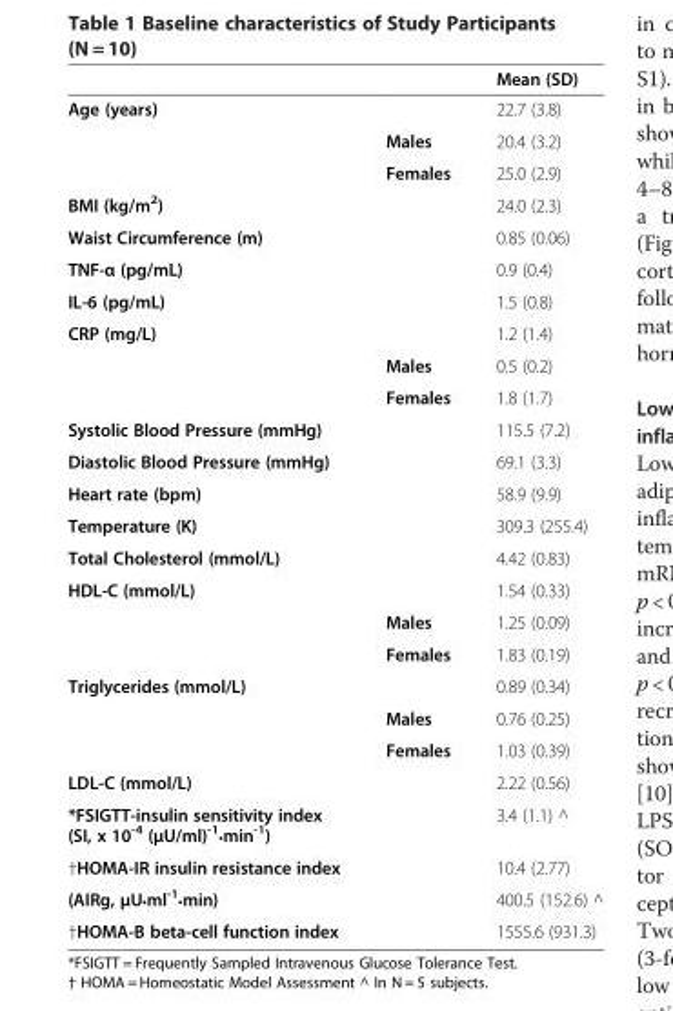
<table><thead><tr><td></td><td></td><td>Mean (SD)</td></tr></thead><tbody><tr><td rowspan="3">Age (years)</td><td></td><td>22.7 (3.8)</td></tr><tr><td>Males</td><td>20.4 (3.2)</td></tr><tr><td>Females</td><td>25.0 (2.9)</td></tr><tr><td>BMI (kg/m<sup>2</sup>)</td><td></td><td>24.0 (2.3)</td></tr><tr><td>Waist Circumference (m)</td><td></td><td>0.85 (0.06)</td></tr><tr><td>TNF-α (pg/mL)</td><td></td><td>0.9 (0.4)</td></tr><tr><td>IL-6 (pg/mL)</td><td></td><td>1.5 (0.8)</td></tr><tr><td rowspan="3">CRP (mg/L)</td><td></td><td>1.2 (1.4)</td></tr><tr><td>Males</td><td>0.5 (0.2)</td></tr><tr><td>Females</td><td>1.8 (1.7)</td></tr><tr><td>Systolic Blood Pressure (mmHg)</td><td></td><td>115.5 (7.2)</td></tr><tr><td>Diastolic Blood Pressure (mmHg)</td><td></td><td>69.1 (3.3)</td></tr><tr><td>Heart rate (bpm)</td><td></td><td>58.9 (9.9)</td></tr><tr><td>Temperature (K)</td><td></td><td>309.3 (255.4)</td></tr><tr><td>Total Cholesterol (mmol/L)</td><td></td><td>4.42 (0.83)</td></tr><tr><td rowspan="3">HDL-C (mmol/L)</td><td></td><td>1.54 (0.33)</td></tr><tr><td>Males</td><td>1.25 (0.09)</td></tr><tr><td>Females</td><td>1.83 (0.19)</td></tr><tr><td rowspan="3">Triglycerides (mmol/L)</td><td></td><td>0.89 (0.34)</td></tr><tr><td>Males</td><td>0.76 (0.25)</td></tr><tr><td>Females</td><td>1.03 (0.39)</td></tr><tr><td>LDL-C (mmol/L)</td><td></td><td>2.22 (0.56)</td></tr><tr><td>*FSIGTT-insulin sensitivity index (SI, x 10-4 (μU/ml)-1•min-1)</td><td></td><td>3.4 (1.1) ^</td></tr><tr><td>†HOMA-IR insulin resistance index</td><td></td><td>10.4 (2.77)</td></tr><tr><td>(AIRg, μU•ml-1•min)</td><td></td><td>400.5 (152.6) ^</td></tr><tr><td>†HOMA-B beta-cell function index</td><td></td><td>1555.6 (931.3)</td></tr></tbody></table>